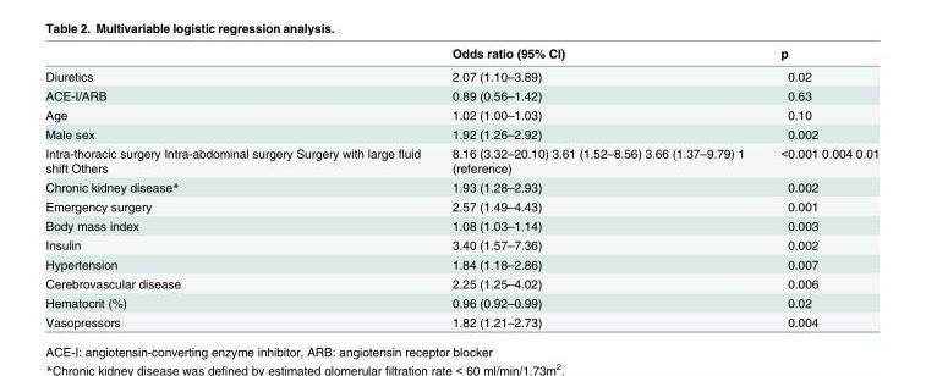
<table><thead><tr><td></td><td>Odds ratio (95% CI)</td><td>p</td></tr></thead><tbody><tr><td>Diuretics</td><td>2.07 (1.10–3.89)</td><td>0.02</td></tr><tr><td>ACE-I/ARB</td><td>0.89 (0.56–1.42)</td><td>0.63</td></tr><tr><td>Age</td><td>1.02 (1.00–1.03)</td><td>0.10</td></tr><tr><td>Male sex</td><td>1.92 (1.26–2.92)</td><td>0.002</td></tr><tr><td>Intra-thoracic surgery Intra-abdominal surgery Surgery with large fluid shift Others</td><td>8.16 (3.32–20.10) 3.61 (1.52–8.56) 3.66 (1.37–9.79) 1 (reference)</td><td>&lt;0.001 0.004 0.01</td></tr><tr><td>Chronic kidney disease*</td><td>1.93 (1.28–2.93)</td><td>0.002</td></tr><tr><td>Emergency surgery</td><td>2.57 (1.49–4.43)</td><td>0.001</td></tr><tr><td>Body mass index</td><td>1.08 (1.03–1.14)</td><td>0.003</td></tr><tr><td>Insulin</td><td>3.40 (1.57–7.36)</td><td>0.002</td></tr><tr><td>Hypertension</td><td>1.84 (1.18–2.86)</td><td>0.007</td></tr><tr><td>Cerebrovascular disease</td><td>2.25 (1.25–4.02)</td><td>0.006</td></tr><tr><td>Hematocrit (%)</td><td>0.96 (0.92–0.99)</td><td>0.02</td></tr><tr><td>Vasopressors</td><td>1.82 (1.21–2.73)</td><td>0.004</td></tr></tbody></table>